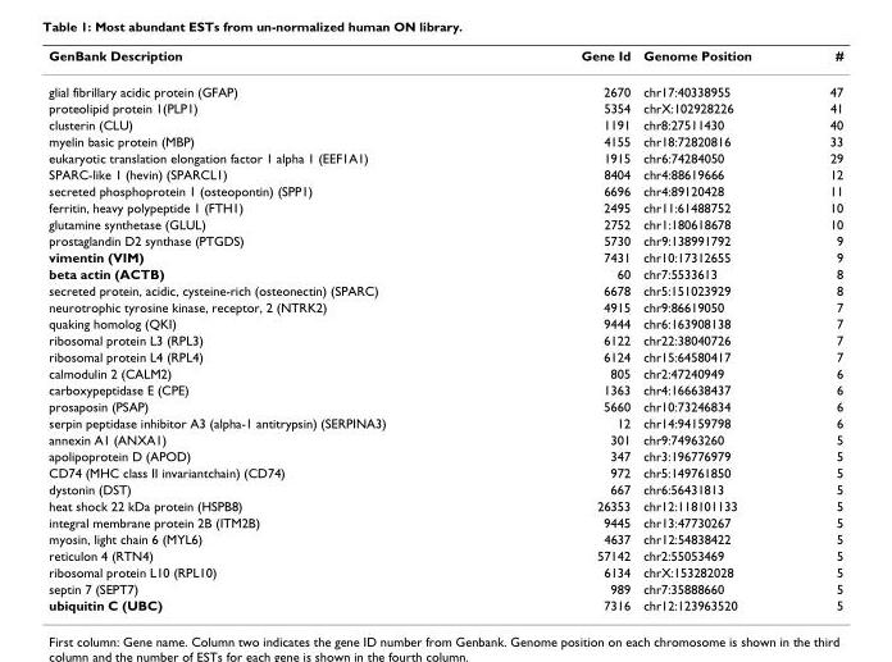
<table><thead><tr><td>GenBank Description</td><td>Gene Id</td><td>Genome Position</td><td>#</td></tr></thead><tbody><tr><td>glial fibrillary acidic protein (GFAP)</td><td>2670</td><td>chr17:40338955</td><td>47</td></tr><tr><td>proteolipid protein 1(PLP1)</td><td>5354</td><td>chrX:102928226</td><td>41</td></tr><tr><td>clusterin (CLU)</td><td>1191</td><td>chr8:27511430</td><td>40</td></tr><tr><td>myelin basic protein (MBP)</td><td>4155</td><td>chr18:72820816</td><td>33</td></tr><tr><td>eukaryotic translation elongation factor 1 alpha 1 (EEF1A1)</td><td>1915</td><td>chr6:74284050</td><td>29</td></tr><tr><td>SPARC-like 1 (hevin) (SPARCL1)</td><td>8404</td><td>chr4:88619666</td><td>12</td></tr><tr><td>secreted phosphoprotein 1 (osteopontin) (SPP1)</td><td>6696</td><td>chr4:89120428</td><td>11</td></tr><tr><td>ferritin, heavy polypeptide 1 (FTH1)</td><td>2495</td><td>chr11:61488752</td><td>10</td></tr><tr><td>glutamine synthetase (GLUL)</td><td>2752</td><td>chr1:180618678</td><td>10</td></tr><tr><td>prostaglandin D2 synthase (PTGDS)</td><td>5730</td><td>chr9:138991792</td><td>9</td></tr><tr><td>vimentin (VIM)</td><td>7431</td><td>chr10:17312655</td><td>9</td></tr><tr><td>beta actin (ACTB)</td><td>60</td><td>chr7:5533613</td><td>8</td></tr><tr><td>secreted protein, acidic, cysteine-rich (osteonectin) (SPARC)</td><td>6678</td><td>chr5:151023929</td><td>8</td></tr><tr><td>neurotrophic tyrosine kinase, receptor, 2 (NTRK2)</td><td>4915</td><td>chr9:86619050</td><td>7</td></tr><tr><td>quaking homolog (QKI)</td><td>9444</td><td>chr6:163908138</td><td>7</td></tr><tr><td>ribosomal protein L3 (RPL3)</td><td>6122</td><td>chr22:38040726</td><td>7</td></tr><tr><td>ribosomal protein L4 (RPL4)</td><td>6124</td><td>chr15:64580417</td><td>7</td></tr><tr><td>calmodulin 2 (CALM2)</td><td>805</td><td>chr2:47240949</td><td>6</td></tr><tr><td>carboxypeptidase E (CPE)</td><td>1363</td><td>chr4:166638437</td><td>6</td></tr><tr><td>prosaposin (PSAP)</td><td>5660</td><td>chr10:73246834</td><td>6</td></tr><tr><td>serpin peptidase inhibitor A3 (alpha-1 antitrypsin) (SERPINA3)</td><td>12</td><td>chr14:94159798</td><td>6</td></tr><tr><td>annexin A1 (ANXA1)</td><td>301</td><td>chr9:74963260</td><td>5</td></tr><tr><td>apolipoprotein D (APOD)</td><td>347</td><td>chr3:196776979</td><td>5</td></tr><tr><td>CD74 (MHC class II invariantchain) (CD74)</td><td>972</td><td>chr5:149761850</td><td>5</td></tr><tr><td>dystonin (DST)</td><td>667</td><td>chr6:56431813</td><td>5</td></tr><tr><td>heat shock 22 kDa protein (HSPB8)</td><td>26353</td><td>chr12:118101133</td><td>5</td></tr><tr><td>integral membrane protein 2B (ITM2B)</td><td>9445</td><td>chr13:47730267</td><td>5</td></tr><tr><td>myosin, light chain 6 (MYL6)</td><td>4637</td><td>chr12:54838422</td><td>5</td></tr><tr><td>reticulon 4 (RTN4)</td><td>57142</td><td>chr2:55053469</td><td>5</td></tr><tr><td>ribosomal protein L10 (RPL10)</td><td>6134</td><td>chrX:153282028</td><td>5</td></tr><tr><td>septin 7 (SEPT7)</td><td>989</td><td>chr7:35888660</td><td>5</td></tr><tr><td>ubiquitin C (UBC)</td><td>7316</td><td>chr12:123963520</td><td>5</td></tr></tbody></table>